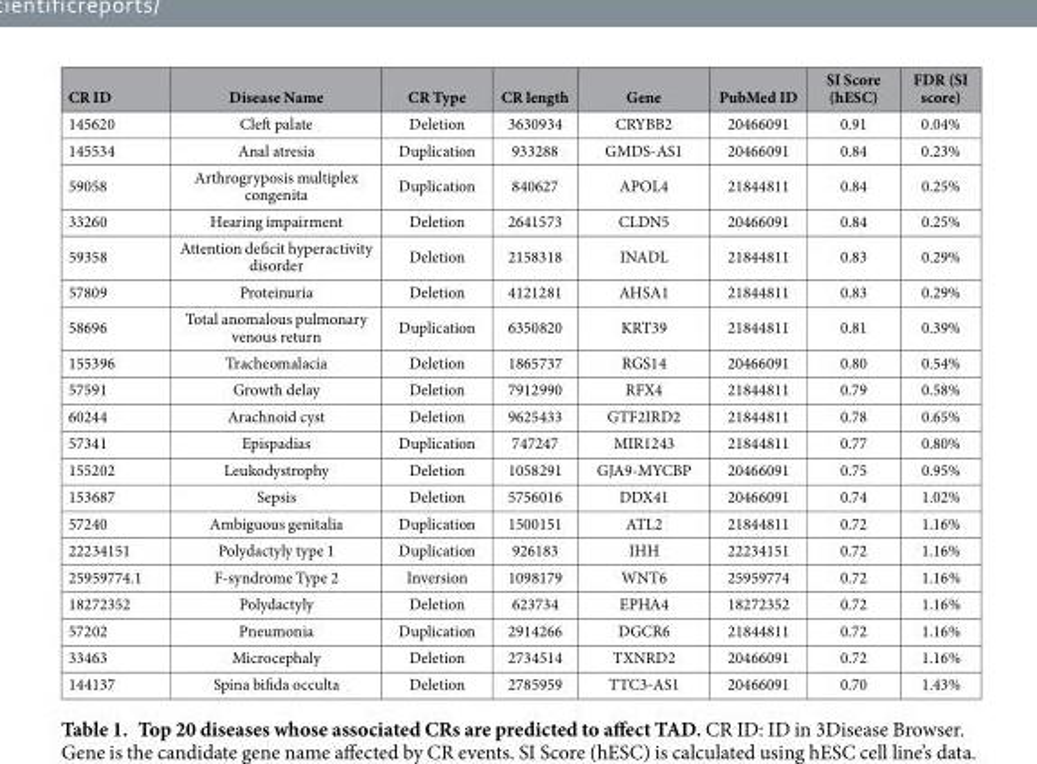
<table><thead><tr><td>CR ID</td><td>Disease Name</td><td>CR Type</td><td>CR length</td><td>Gene</td><td>PubMed ID</td><td>SI Score (hESC)</td><td>FDR (SI score)</td></tr></thead><tbody><tr><td>145620</td><td>Cleft palate</td><td>Deletion</td><td>3630934</td><td>CRYBB2</td><td>20466091</td><td>0.91</td><td>0.04%</td></tr><tr><td>145534</td><td>Anal atresia</td><td>Duplication</td><td>933288</td><td>GMDS-AS1</td><td>20466091</td><td>0.84</td><td>0.23%</td></tr><tr><td>59058</td><td>Arthrogryposis multiplex congenita</td><td>Duplication</td><td>840627</td><td>APOL4</td><td>21844811</td><td>0.84</td><td>0.25%</td></tr><tr><td>33260</td><td>Hearing impairment</td><td>Deletion</td><td>2641573</td><td>CLDN5</td><td>20466091</td><td>0.84</td><td>0.25%</td></tr><tr><td>59358</td><td>Attention deficit hyperactivity disorder</td><td>Deletion</td><td>2158318</td><td>INADL</td><td>21844811</td><td>0.83</td><td>0.29%</td></tr><tr><td>57809</td><td>Proteinuria</td><td>Deletion</td><td>4121281</td><td>AHSA1</td><td>21844811</td><td>0.83</td><td>0.29%</td></tr><tr><td>58696</td><td>Total anomalous pulmonary venous return</td><td>Duplication</td><td>6350820</td><td>KRT39</td><td>21844811</td><td>0.81</td><td>0.39%</td></tr><tr><td>155396</td><td>Tracheomalacia</td><td>Deletion</td><td>1865737</td><td>RGS14</td><td>20466091</td><td>0.80</td><td>0.54%</td></tr><tr><td>57591</td><td>Growth delay</td><td>Deletion</td><td>7912990</td><td>RFX4</td><td>21844811</td><td>0.79</td><td>0.58%</td></tr><tr><td>60244</td><td>Arachnoid cyst</td><td>Deletion</td><td>9625433</td><td>GTF2IRD2</td><td>21844811</td><td>0.78</td><td>0.65%</td></tr><tr><td>57341</td><td>Epispadias</td><td>Duplication</td><td>747247</td><td>MIR1243</td><td>21844811</td><td>0.77</td><td>0.80%</td></tr><tr><td>155202</td><td>Leukodystrophy</td><td>Deletion</td><td>1058291</td><td>GJA9-MYCBP</td><td>20466091</td><td>0.75</td><td>0.95%</td></tr><tr><td>153687</td><td>Sepsis</td><td>Deletion</td><td>5756016</td><td>DDX41</td><td>20466091</td><td>0.74</td><td>1.02%</td></tr><tr><td>57240</td><td>Ambiguous genitalia</td><td>Duplication</td><td>1500151</td><td>ATL2</td><td>21844811</td><td>0.72</td><td>1.16%</td></tr><tr><td>22234151</td><td>Polydactyly type 1</td><td>Duplication</td><td>926183</td><td>IHH</td><td>22234151</td><td>0.72</td><td>1.16%</td></tr><tr><td>25959774.1</td><td>F-syndrome Type 2</td><td>Inversion</td><td>1098179</td><td>WNT6</td><td>25959774</td><td>0.72</td><td>1.16%</td></tr><tr><td>18272352</td><td>Polydactyly</td><td>Deletion</td><td>623734</td><td>EPHA4</td><td>18272352</td><td>0.72</td><td>1.16%</td></tr><tr><td>57202</td><td>Pneumonia</td><td>Duplication</td><td>2914266</td><td>DGCR6</td><td>21844811</td><td>0.72</td><td>1.16%</td></tr><tr><td>33463</td><td>Microcephaly</td><td>Deletion</td><td>2734514</td><td>TXNRD2</td><td>20466091</td><td>0.72</td><td>1.16%</td></tr><tr><td>144137</td><td>Spina bifida occulta</td><td>Deletion</td><td>2785959</td><td>TTC3-AS1</td><td>20466091</td><td>0.70</td><td>1.43%</td></tr></tbody></table>